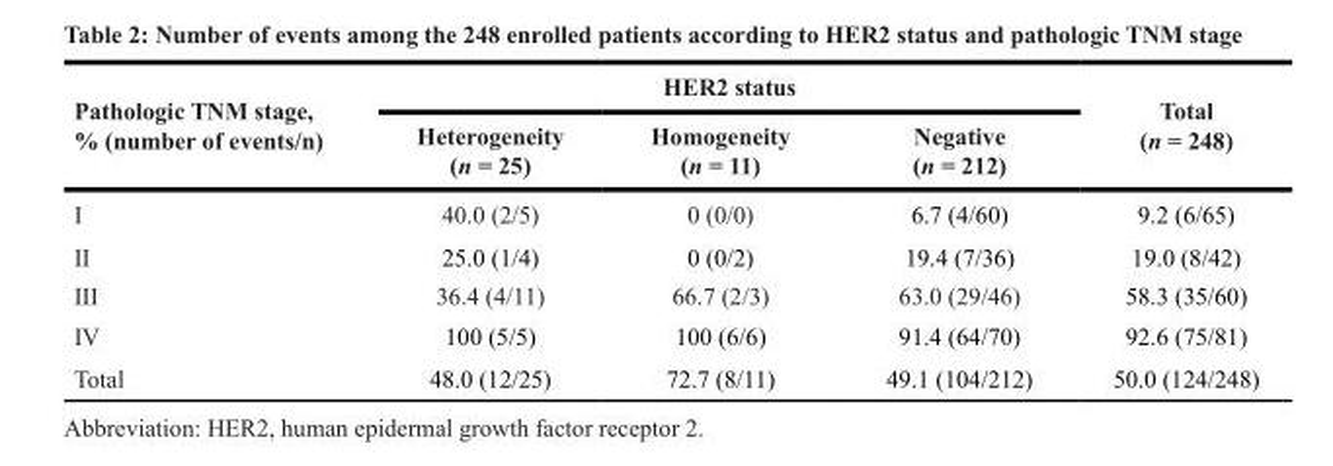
<table><thead><tr><td rowspan="2">Pathologic TNM stage, % (number of events/n)</td><td colspan="3">HER2 status</td><td rowspan="2">Total (n = 248)</td></tr><tr><td>Heterogeneity (n = 25)</td><td>Homogeneity (n = 11)</td><td>Negative (n = 212)</td></tr></thead><tbody><tr><td>I</td><td>40.0 (2/5)</td><td>0 (0/0)</td><td>6.7 (4/60)</td><td>9.2 (6/65)</td></tr><tr><td>II</td><td>25.0 (1/4)</td><td>0 (0/2)</td><td>19.4 (7/36)</td><td>19.0 (8/42)</td></tr><tr><td>III</td><td>36.4 (4/11)</td><td>66.7 (2/3)</td><td>63.0 (29/46)</td><td>58.3 (35/60)</td></tr><tr><td>IV</td><td>100 (5/5)</td><td>100 (6/6)</td><td>91.4 (64/70)</td><td>92.6 (75/81)</td></tr><tr><td>Total</td><td>48.0 (12/25)</td><td>72.7 (8/11)</td><td>49.1 (104/212)</td><td>50.0 (124/248)</td></tr></tbody></table>